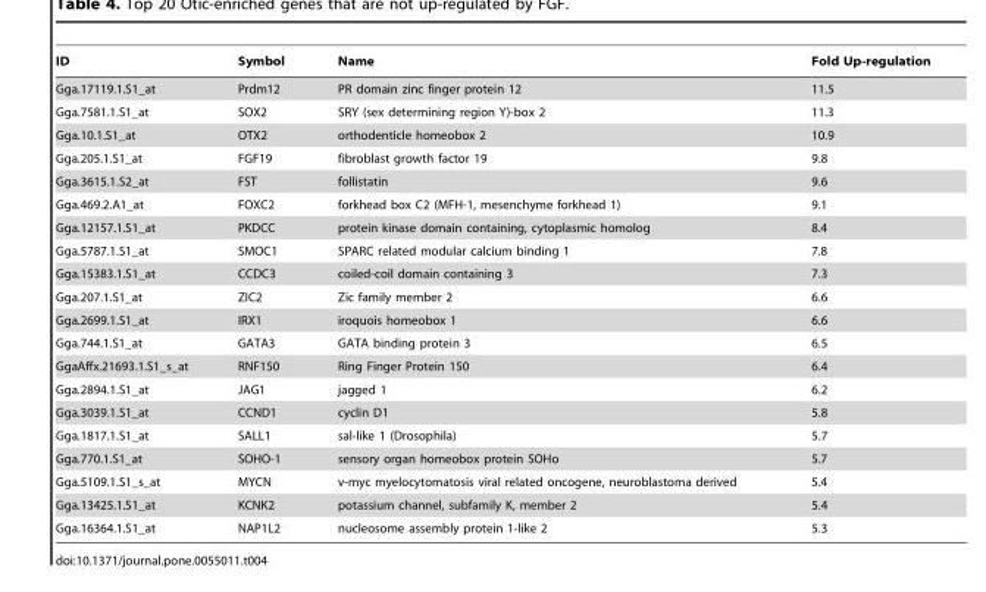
<table><thead><tr><td>ID</td><td>Symbol</td><td>Name</td><td>Fold Up-regulation</td></tr></thead><tbody><tr><td>Gga.17119.1.S1_at</td><td>Prdm12</td><td>PR domain zinc finger protein 12</td><td>11.5</td></tr><tr><td>Gga.7581.1.S1_at</td><td>SOX2</td><td>SRY (sex determining region Y)-box 2</td><td>11.3</td></tr><tr><td>Gga.10.1.S1_at</td><td>OTX2</td><td>orthodenticle homeobox 2</td><td>10.9</td></tr><tr><td>Gga.205.1.S1_at</td><td>FGF19</td><td>fibroblast growth factor 19</td><td>9.8</td></tr><tr><td>Gga.3615.1.S2_at</td><td>FST</td><td>follistatin</td><td>9.6</td></tr><tr><td>Gga.469.2.A1_at</td><td>FOXC2</td><td>forkhead box C2 (MFH-1, mesenchyme forkhead 1)</td><td>9.1</td></tr><tr><td>Gga.12157.1.S1_at</td><td>PKDCC</td><td>protein kinase domain containing, cytoplasmic homolog</td><td>8.4</td></tr><tr><td>Gga.5787.1.S1_at</td><td>SMOC1</td><td>SPARC related modular calcium binding 1</td><td>7.8</td></tr><tr><td>Gga.15383.1.S1_at</td><td>CCDC3</td><td>coiled-coil domain containing 3</td><td>7.3</td></tr><tr><td>Gga.207.1.S1_at</td><td>ZIC2</td><td>Zic family member 2</td><td>6.6</td></tr><tr><td>Gga.2699.1.S1_at</td><td>IRX1</td><td>iroquois homeobox 1</td><td>6.6</td></tr><tr><td>Gga.744.1.S1_at</td><td>GATA3</td><td>GATA binding protein 3</td><td>6.5</td></tr><tr><td>GgaAffx.21693.1.S1_s_at</td><td>RNF150</td><td>Ring Finger Protein 150</td><td>6.4</td></tr><tr><td>Gga.2894.1.S1_at</td><td>JAG1</td><td>jagged 1</td><td>6.2</td></tr><tr><td>Gga.3039.1.S1_at</td><td>CCND1</td><td>cyclin D1</td><td>5.8</td></tr><tr><td>Gga.1817.1.S1_at</td><td>SALL1</td><td>sal-like 1 (Drosophila)</td><td>5.7</td></tr><tr><td>Gga.770.1.S1_at</td><td>SOHO-1</td><td>sensory organ homeobox protein SOHo</td><td>5.7</td></tr><tr><td>Gga.5109.1.S1_s_at</td><td>MYCN</td><td>v-myc myelocytomatosis viral related oncogene, neuroblastoma derived</td><td>5.4</td></tr><tr><td>Gga.13425.1.S1_at</td><td>KCNK2</td><td>potassium channel, subfamily K, member 2</td><td>5.4</td></tr><tr><td>Gga.16364.1.S1_at</td><td>NAP1L2</td><td>nucleosome assembly protein 1-like 2</td><td>5.3</td></tr></tbody></table>